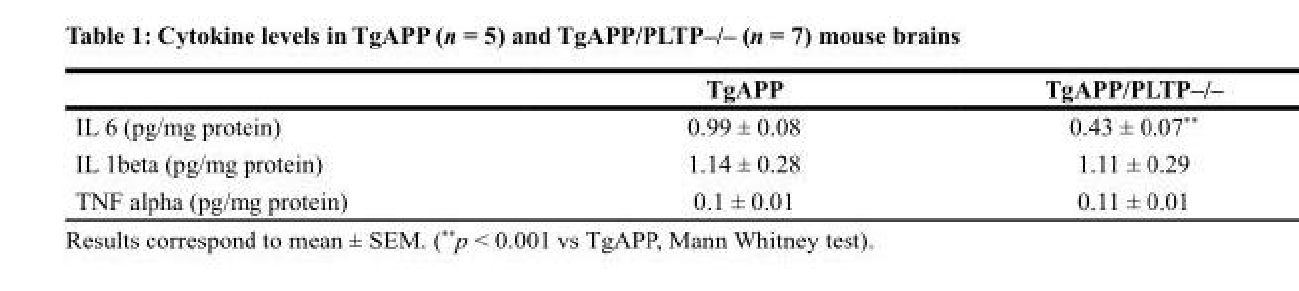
<table><thead><tr><td></td><td>TgAPP</td><td>TgAPP/PLTP–/–</td></tr></thead><tbody><tr><td>IL 6 (pg/mg protein)</td><td>0.99 ± 0.08</td><td>0.43 ± 0.07**</td></tr><tr><td>IL 1beta (pg/mg protein)</td><td>1.14 ± 0.28</td><td>1.11 ± 0.29</td></tr><tr><td>TNF alpha (pg/mg protein)</td><td>0.1 ± 0.01</td><td>0.11 ± 0.01</td></tr></tbody></table>